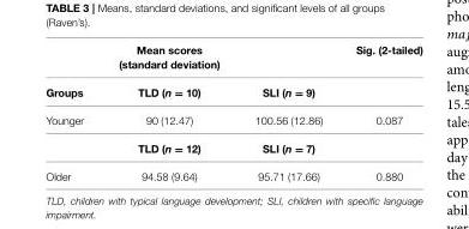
<table><thead><tr><td></td><td>Mean scores (standard deviation)</td><td></td><td>Sig. (2-tailed)</td></tr></thead><tbody><tr><td>Groups</td><td>TLD (n = 10)</td><td>SLI (n = 9)</td><td></td></tr><tr><td rowspan="2">Younger</td><td>90 (12.47)</td><td>100.56 (12.86)</td><td>0.087</td></tr><tr><td>TLD (n = 12)</td><td>SLI (n = 7)</td><td></td></tr><tr><td>Older</td><td>94.58 (9.64)</td><td>95.71 (17.66)</td><td>0.880</td></tr></tbody></table>